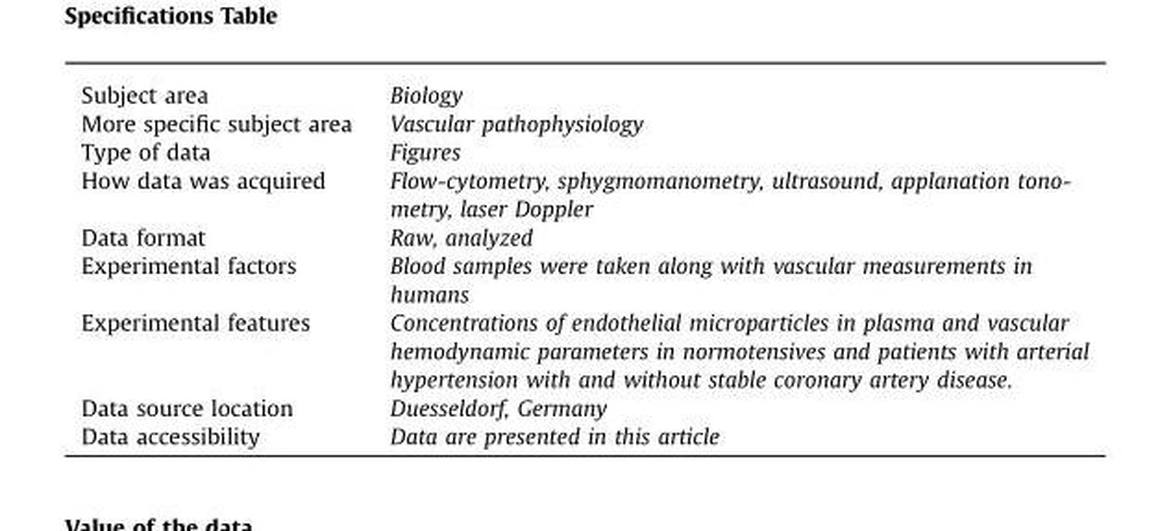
<table><tbody><tr><td>Subject area</td><td>Biology</td></tr><tr><td>More specific subject area</td><td>Vascular pathophysiology</td></tr><tr><td>Type of data</td><td>Figures</td></tr><tr><td>How data was acquired</td><td>Flow-cytometry, sphygmomanometry, ultrasound, applanation tono- metry, laser Doppler</td></tr><tr><td>Data format</td><td>Raw, analyzed</td></tr><tr><td>Experimental factors</td><td>Blood samples were taken along with vascular measurements in humans</td></tr><tr><td>Experimental features</td><td>Concentrations of endothelial microparticles in plasma and vascular hemodynamic parameters in normotensives and patients with arterial hypertension with and without stable coronary artery disease.</td></tr><tr><td>Data source location</td><td>Duesseldorf, Germany</td></tr><tr><td>Data accessibility</td><td>Data are presented in this article</td></tr></tbody></table>